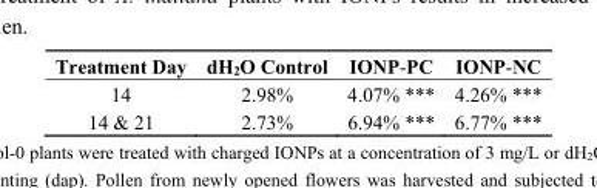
<table><thead><tr><td>Treatment Day</td><td>dH<sub>2</sub>O Control</td><td>IONP-PC</td><td>IONP-NC</td></tr></thead><tbody><tr><td>14</td><td>2.98%</td><td>4.07% ***</td><td>4.26% ***</td></tr><tr><td>14 &amp; 21</td><td>2.73%</td><td>6.94% ***</td><td>6.77% ***</td></tr></tbody></table>